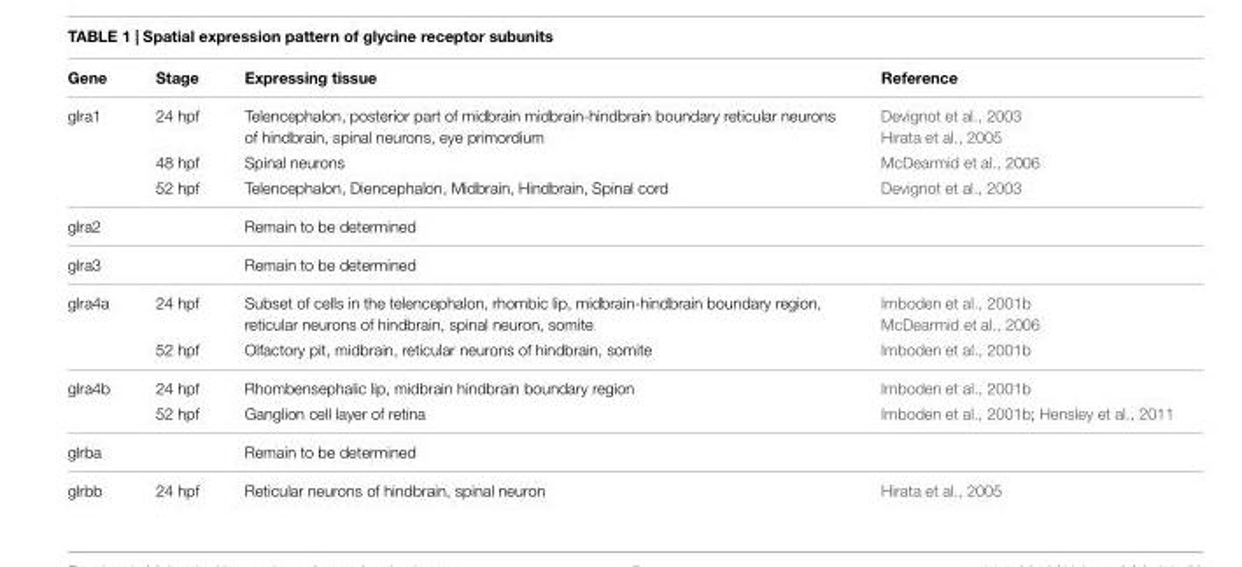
<table><thead><tr><td>Gene</td><td>Stage</td><td>Expressing tissue</td><td>Reference</td></tr></thead><tbody><tr><td rowspan="3">glra1</td><td>24 hpf</td><td>Telencephalon, posterior part of midbrain midbrain-hindbrain boundary reticular neurons of hindbrain, spinal neurons, eye primordium</td><td>Devignot et al., 2003 Hirata et al., 2005</td></tr><tr><td>48 hpf</td><td>Spinal neurons</td><td>McDearmid et al., 2006</td></tr><tr><td>52 hpf</td><td>Telencephalon, Diencephalon, Midbrain, Hindbrain, Spinal cord</td><td>Devignot et al., 2003</td></tr><tr><td>glra2</td><td></td><td>Remain to be determined</td><td></td></tr><tr><td>glra3</td><td></td><td>Remain to be determined</td><td></td></tr><tr><td rowspan="2">glra4a</td><td>24 hpf</td><td>Subset of cells in the telencephalon, rhombic lip, midbrain-hindbrain boundary region, reticular neurons of hindbrain, spinal neuron, somite</td><td>Imboden et al., 2001b McDearmid et al., 2006</td></tr><tr><td>52 hpf</td><td>Olfactory pit, midbrain, reticular neurons of hindbrain, somite</td><td>Imboden et al., 2001b</td></tr><tr><td rowspan="2">glra4b</td><td>24 hpf</td><td>Rhombensephalic lip, midbrain hindbrain boundary region</td><td>Imboden et al., 2001b</td></tr><tr><td>52 hpf</td><td>Ganglion cell layer of retina</td><td>Imboden et al., 2001b; Hensley et al., 2011</td></tr><tr><td>glrba</td><td></td><td>Remain to be determined</td><td></td></tr><tr><td>glrbb</td><td>24 hpf</td><td>Reticular neurons of hindbrain, spinal neuron</td><td>Hirata et al., 2005</td></tr></tbody></table>